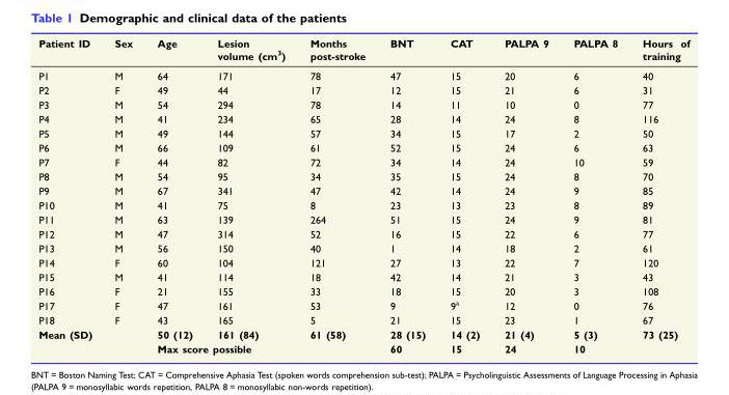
<table><thead><tr><td>Patient ID</td><td>Sex</td><td>Age</td><td>Lesion volume (cm<sup>3</sup>)</td><td>Months post-stroke</td><td>BNT</td><td>CAT</td><td>PALPA 9</td><td>PALPA 8</td><td>Hours of training</td></tr></thead><tbody><tr><td>P1</td><td>M</td><td>64</td><td>171</td><td>78</td><td>47</td><td>15</td><td>20</td><td>6</td><td>40</td></tr><tr><td>P2</td><td>F</td><td>49</td><td>44</td><td>17</td><td>12</td><td>15</td><td>21</td><td>6</td><td>31</td></tr><tr><td>P3</td><td>M</td><td>54</td><td>294</td><td>78</td><td>14</td><td>11</td><td>10</td><td>0</td><td>77</td></tr><tr><td>P4</td><td>M</td><td>41</td><td>234</td><td>65</td><td>28</td><td>14</td><td>24</td><td>8</td><td>116</td></tr><tr><td>P5</td><td>M</td><td>49</td><td>144</td><td>57</td><td>34</td><td>15</td><td>17</td><td>2</td><td>50</td></tr><tr><td>P6</td><td>M</td><td>66</td><td>109</td><td>61</td><td>52</td><td>15</td><td>24</td><td>6</td><td>63</td></tr><tr><td>P7</td><td>F</td><td>44</td><td>82</td><td>72</td><td>34</td><td>14</td><td>24</td><td>10</td><td>59</td></tr><tr><td>P8</td><td>M</td><td>54</td><td>95</td><td>34</td><td>35</td><td>15</td><td>24</td><td>8</td><td>70</td></tr><tr><td>P9</td><td>M</td><td>67</td><td>341</td><td>47</td><td>42</td><td>14</td><td>24</td><td>9</td><td>85</td></tr><tr><td>P10</td><td>M</td><td>41</td><td>75</td><td>8</td><td>23</td><td>13</td><td>23</td><td>8</td><td>89</td></tr><tr><td>P11</td><td>M</td><td>63</td><td>139</td><td>264</td><td>51</td><td>15</td><td>24</td><td>9</td><td>81</td></tr><tr><td>P12</td><td>M</td><td>47</td><td>314</td><td>52</td><td>16</td><td>15</td><td>22</td><td>6</td><td>77</td></tr><tr><td>P13</td><td>M</td><td>56</td><td>150</td><td>40</td><td>1</td><td>14</td><td>18</td><td>2</td><td>61</td></tr><tr><td>P14</td><td>F</td><td>60</td><td>104</td><td>121</td><td>27</td><td>13</td><td>22</td><td>7</td><td>120</td></tr><tr><td>P15</td><td>M</td><td>41</td><td>114</td><td>18</td><td>42</td><td>14</td><td>21</td><td>3</td><td>43</td></tr><tr><td>P16</td><td>F</td><td>21</td><td>155</td><td>33</td><td>18</td><td>15</td><td>20</td><td>3</td><td>108</td></tr><tr><td>P17</td><td>F</td><td>47</td><td>161</td><td>53</td><td>9</td><td>9<sup>a</sup></td><td>12</td><td>0</td><td>76</td></tr><tr><td>P18</td><td>F</td><td>43</td><td>165</td><td>5</td><td>21</td><td>15</td><td>23</td><td>1</td><td>67</td></tr><tr><td rowspan="2" colspan="2">Mean (SD)</td><td>50 (12)</td><td>161 (84)</td><td>61 (58)</td><td>28 (15)</td><td>14 (2)</td><td>21 (4)</td><td>5 (3)</td><td>73 (25)</td></tr><tr><td colspan="3">Max score possible</td><td>60</td><td>15</td><td>24</td><td>10</td><td></td></tr></tbody></table>